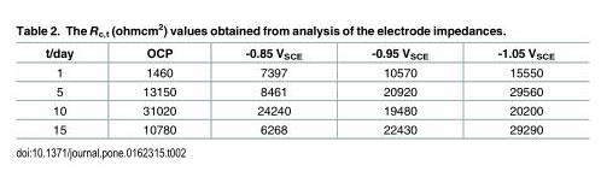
<table><thead><tr><td>t/day</td><td>OCP</td><td>-0.85 V<sub>SCE</sub></td><td>-0.95 V<sub>SCE</sub></td><td>-1.05 V<sub>SCE</sub></td></tr></thead><tbody><tr><td>1</td><td>1460</td><td>7397</td><td>10570</td><td>15550</td></tr><tr><td>5</td><td>13150</td><td>8461</td><td>20920</td><td>29560</td></tr><tr><td>10</td><td>31020</td><td>24240</td><td>19480</td><td>20200</td></tr><tr><td>15</td><td>10780</td><td>6268</td><td>22430</td><td>29290</td></tr></tbody></table>